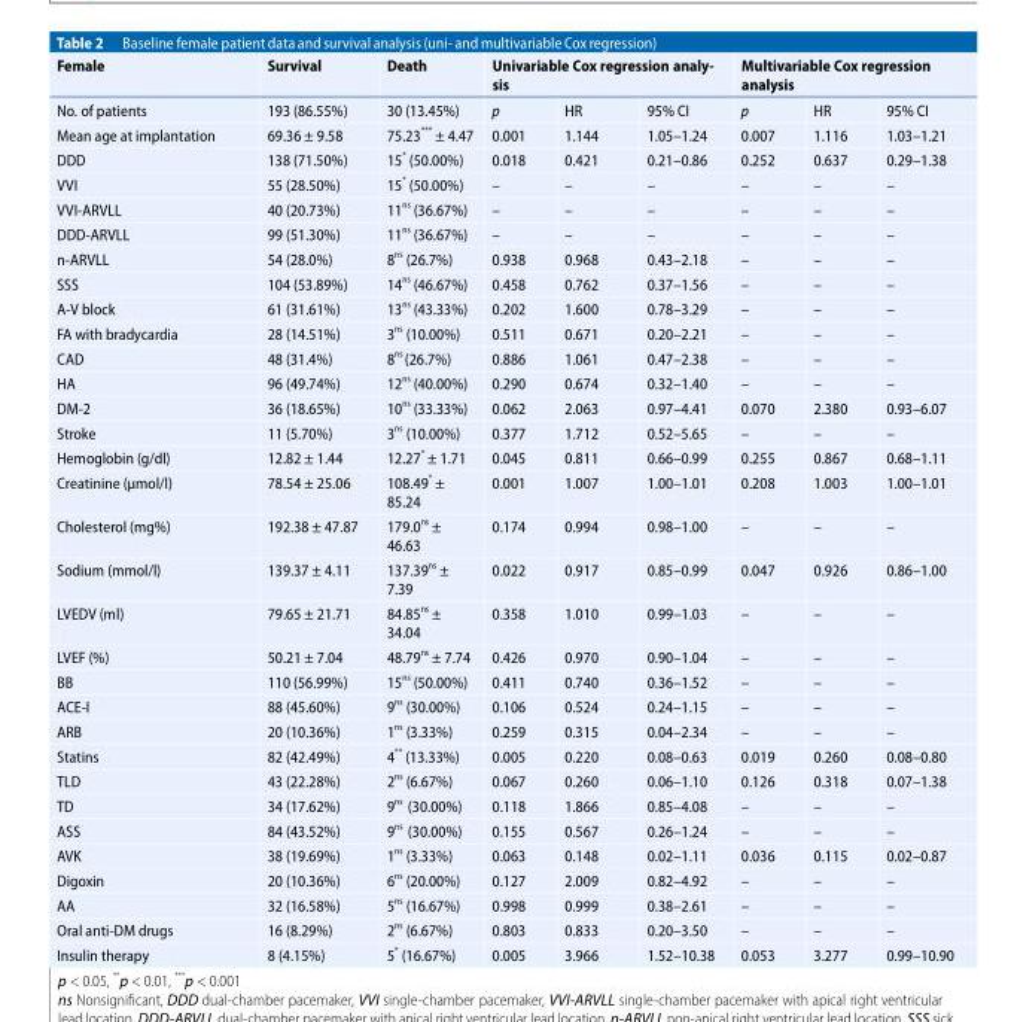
<table><thead><tr><td rowspan="2">Female No. of patients</td><td rowspan="2">Survival 193 (86.55%)</td><td rowspan="2">Death 30 (13.45%)</td><td colspan="3">Univariable Cox regression analy- sis</td><td colspan="3">Multivariable Cox regression analysis</td></tr><tr><td>p</td><td>HR</td><td>95% CI</td><td>p</td><td>HR</td><td>95% CI</td></tr></thead><tbody><tr><td>Mean age at implantation</td><td>69.36 ± 9.58</td><td>75.23 *** ± 4.47</td><td>0.001</td><td>1.144</td><td>1.05–1.24</td><td>0.007</td><td>1.116</td><td>1.03–1.21</td></tr><tr><td>DDD</td><td>138 (71.50%)</td><td>15 * (50.00%)</td><td>0.018</td><td>0.421</td><td>0.21–0.86</td><td>0.252</td><td>0.637</td><td>0.29–1.38</td></tr><tr><td>VVI</td><td>55 (28.50%)</td><td>15 * (50.00%)</td><td>–</td><td>–</td><td>–</td><td>–</td><td>–</td><td>–</td></tr><tr><td>VVI-ARVLL</td><td>40 (20.73%)</td><td>11 <sup>ns</sup> (36.67%)</td><td>–</td><td>–</td><td>–</td><td>–</td><td>–</td><td>–</td></tr><tr><td>DDD-ARVLL</td><td>99 (51.30%)</td><td>11 <sup>ns</sup> (36.67%)</td><td>–</td><td>–</td><td>–</td><td>–</td><td>–</td><td>–</td></tr><tr><td>n-ARVLL</td><td>54 (28.0%)</td><td>8 <sup>ns</sup> (26.7%)</td><td>0.938</td><td>0.968</td><td>0.43–2.18</td><td>–</td><td>–</td><td>–</td></tr><tr><td>SSS</td><td>104 (53.89%)</td><td>14 <sup>ns</sup> (46.67%)</td><td>0.458</td><td>0.762</td><td>0.37–1.56</td><td>–</td><td>–</td><td>–</td></tr><tr><td>A-V block</td><td>61 (31.61%)</td><td>13 <sup>ns</sup> (43.33%)</td><td>0.202</td><td>1.600</td><td>0.78–3.29</td><td>–</td><td>–</td><td>–</td></tr><tr><td>FA with bradycardia</td><td>28 (14.51%)</td><td>3 <sup>ns</sup> (10.00%)</td><td>0.511</td><td>0.671</td><td>0.20–2.21</td><td>–</td><td>–</td><td>–</td></tr><tr><td>CAD</td><td>48 (31.4%)</td><td>8 <sup>ns</sup>(26.7%)</td><td>0.886</td><td>1.061</td><td>0.47–2.38</td><td>–</td><td>–</td><td>–</td></tr><tr><td>HA</td><td>96 (49.74%)</td><td>12 <sup>ns</sup> (40.00%)</td><td>0.290</td><td>0.674</td><td>0.32–1.40</td><td>–</td><td>–</td><td>–</td></tr><tr><td>DM-2</td><td>36 (18.65%)</td><td>10 <sup>ns</sup> (33.33%)</td><td>0.062</td><td>2.063</td><td>0.97–4.41</td><td>0.070</td><td>2.380</td><td>0.93–6.07</td></tr><tr><td>Stroke</td><td>11 (5.70%)</td><td>3 <sup>ns</sup> (10.00%)</td><td>0.377</td><td>1.712</td><td>0.52–5.65</td><td>–</td><td>–</td><td>–</td></tr><tr><td>Hemoglobin (g/dl)</td><td>12.82 ± 1.44</td><td>12.27 * ± 1.71</td><td>0.045</td><td>0.811</td><td>0.66–0.99</td><td>0.255</td><td>0.867</td><td>0.68–1.11</td></tr><tr><td>Creatinine (μmol/l)</td><td>78.54 ± 25.06</td><td>108.49 * ± 85.24</td><td>0.001</td><td>1.007</td><td>1.00–1.01</td><td>0.208</td><td>1.003</td><td>1.00–1.01</td></tr><tr><td>Cholesterol (mg%)</td><td>192.38 ± 47.87</td><td>179.0<sup>ns</sup> ± 46.63</td><td>0.174</td><td>0.994</td><td>0.98–1.00</td><td>–</td><td>–</td><td>–</td></tr><tr><td>Sodium (mmol/l)</td><td>139.37 ± 4.11</td><td>137.39<sup>ns</sup> ± 7.39</td><td>0.022</td><td>0.917</td><td>0.85–0.99</td><td>0.047</td><td>0.926</td><td>0.86–1.00</td></tr><tr><td>LVEDV (ml)</td><td>79.65 ± 21.71</td><td>84.85<sup>ns</sup> ± 34.04</td><td>0.358</td><td>1.010</td><td>0.99–1.03</td><td>–</td><td>–</td><td>–</td></tr><tr><td>LVEF (%)</td><td>50.21 ± 7.04</td><td>48.79<sup>ns</sup> ± 7.74</td><td>0.426</td><td>0.970</td><td>0.90–1.04</td><td>–</td><td>–</td><td>–</td></tr><tr><td>BB</td><td>110 (56.99%)</td><td>15<sup>ns</sup> (50.00%)</td><td>0.411</td><td>0.740</td><td>0.36–1.52</td><td>–</td><td>–</td><td>–</td></tr><tr><td>ACE-I</td><td>88 (45.60%)</td><td>9<sup>ns</sup> (30.00%)</td><td>0.106</td><td>0.524</td><td>0.24–1.15</td><td>–</td><td>–</td><td>–</td></tr><tr><td>ARB</td><td>20 (10.36%)</td><td>1<sup>ns</sup> (3.33%)</td><td>0.259</td><td>0.315</td><td>0.04–2.34</td><td>–</td><td>–</td><td>–</td></tr><tr><td>Statins</td><td>82 (42.49%)</td><td>4** (13.33%)</td><td>0.005</td><td>0.220</td><td>0.08–0.63</td><td>0.019</td><td>0.260</td><td>0.08–0.80</td></tr><tr><td>TLD</td><td>43 (22.28%)</td><td>2<sup>ns</sup> (6.67%)</td><td>0.067</td><td>0.260</td><td>0.06–1.10</td><td>0.126</td><td>0.318</td><td>0.07–1.38</td></tr><tr><td>TD</td><td>34 (17.62%)</td><td>9<sup>ns</sup> (30.00%)</td><td>0.118</td><td>1.866</td><td>0.85–4.08</td><td>–</td><td>–</td><td>–</td></tr><tr><td>ASS</td><td>84 (43.52%)</td><td>9<sup>ns</sup> (30.00%)</td><td>0.155</td><td>0.567</td><td>0.26–1.24</td><td>–</td><td>–</td><td>–</td></tr><tr><td>AVK</td><td>38 (19.69%)</td><td>1<sup>ns</sup> (3.33%)</td><td>0.063</td><td>0.148</td><td>0.02–1.11</td><td>0.036</td><td>0.115</td><td>0.02–0.87</td></tr><tr><td>Digoxin</td><td>20 (10.36%)</td><td>6<sup>ns</sup> (20.00%)</td><td>0.127</td><td>2.009</td><td>0.82–4.92</td><td>–</td><td>–</td><td>–</td></tr><tr><td>AA</td><td>32 (16.58%)</td><td>5<sup>ns</sup> (16.67%)</td><td>0.998</td><td>0.999</td><td>0.38–2.61</td><td>–</td><td>–</td><td>–</td></tr><tr><td>Oral anti-DM drugs</td><td>16 (8.29%)</td><td>2<sup>ns</sup> (6.67%)</td><td>0.803</td><td>0.833</td><td>0.20–3.50</td><td>–</td><td>–</td><td>–</td></tr><tr><td>Insulin therapy</td><td>8 (4.15%)</td><td>5* (16.67%)</td><td>0.005</td><td>3.966</td><td>1.52–10.38</td><td>0.053</td><td>3.277</td><td>0.99–10.90</td></tr></tbody></table>